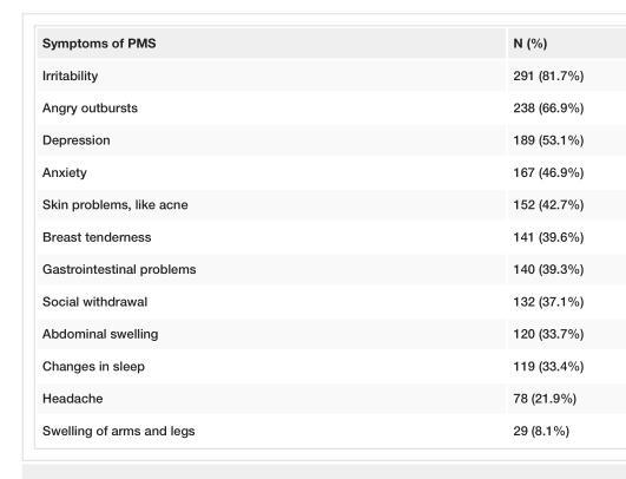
<table><tbody><tr><td>Symptoms of PMS</td><td>N (%)</td></tr><tr><td>Irritability</td><td>291 (81.7%)</td></tr><tr><td>Angry outbursts</td><td>238 (66.9%)</td></tr><tr><td>Depression</td><td>189 (53.1%)</td></tr><tr><td>Anxiety</td><td>167 (46.9%)</td></tr><tr><td>Skin problems, like acne</td><td>152 (42.7%)</td></tr><tr><td>Breast tenderness</td><td>141 (39.6%)</td></tr><tr><td>Gastrointestinal problems</td><td>140 (39.3%)</td></tr><tr><td>Social withdrawal</td><td>132 (37.1%)</td></tr><tr><td>Abdominal swelling</td><td>120 (33.7%)</td></tr><tr><td>Changes in sleep</td><td>119 (33.4%)</td></tr><tr><td>Headache</td><td>78 (21.9%)</td></tr><tr><td>Swelling of arms and legs</td><td>29 (8.1%)</td></tr></tbody></table>